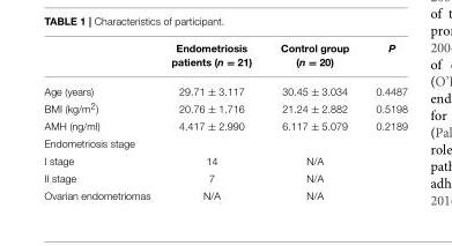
<table><thead><tr><td></td><td>Endometriosis patients (n = 21)</td><td>Control group (n = 20)</td><td>P</td></tr></thead><tbody><tr><td>Age (years)</td><td>29.71 ± 3.117</td><td>30.45 ± 3.034</td><td>0.4487</td></tr><tr><td>BMI (kg/m<sup>2</sup>)</td><td>20.76 ± 1.716</td><td>21.24 ± 2.882</td><td>0.5198</td></tr><tr><td>AMH (ng/ml)</td><td>4.417 ± 2.990</td><td>6.117 ± 5.079</td><td>0.2189</td></tr><tr><td colspan="4">Endometriosis stage</td></tr><tr><td>I stage</td><td>14</td><td>N/A</td><td></td></tr><tr><td>II stage</td><td>7</td><td>N/A</td><td></td></tr><tr><td>Ovarian endometriomas</td><td>N/A</td><td>N/A</td><td></td></tr></tbody></table>